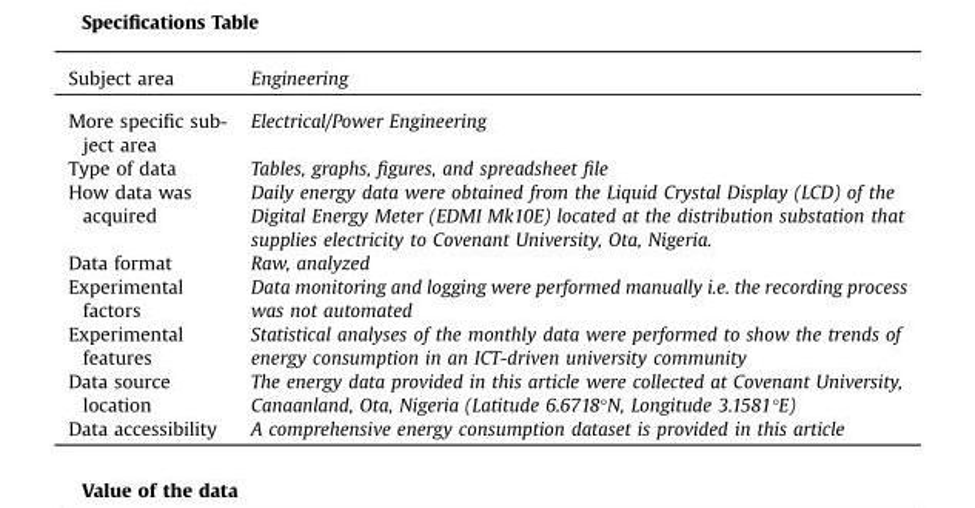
<table><thead><tr><td>Subject area</td><td>Engineering</td></tr></thead><tbody><tr><td>More specific sub- ject area</td><td>Electrical/Power Engineering</td></tr><tr><td>Type of data</td><td>Tables, graphs, figures, and spreadsheet file</td></tr><tr><td>How data was acquired</td><td>Daily energy data were obtained from the Liquid Crystal Display (LCD) of the Digital Energy Meter (EDMI Mk10E) located at the distribution substation that supplies electricity to Covenant University, Ota, Nigeria.</td></tr><tr><td>Data format</td><td>Raw, analyzed</td></tr><tr><td>Experimental factors</td><td>Data monitoring and logging were performed manually i.e. the recording process was not automated</td></tr><tr><td>Experimental features</td><td>Statistical analyses of the monthly data were performed to show the trends of energy consumption in an ICT-driven university community</td></tr><tr><td>Data source location</td><td>The energy data provided in this article were collected at Covenant University, Canaanland, Ota, Nigeria (Latitude 6.6718°N, Longitude 3.1581°E)</td></tr><tr><td>Data accessibility</td><td>A comprehensive energy consumption dataset is provided in this article</td></tr></tbody></table>